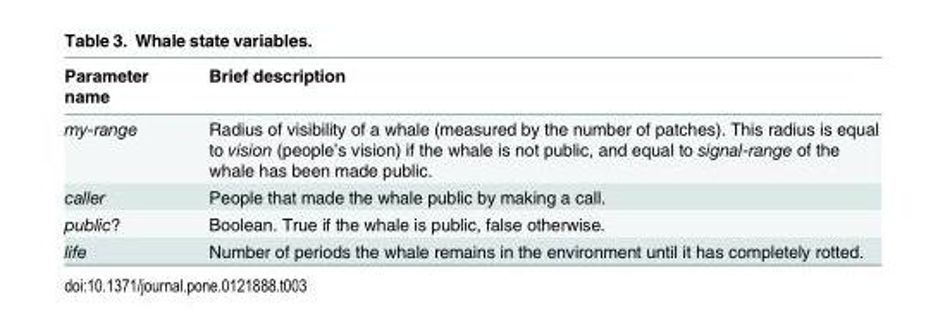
<table><thead><tr><td>Parameter name</td><td>Brief description</td></tr></thead><tbody><tr><td>my-range</td><td>Radius of visibility of a whale (measured by the number of patches). This radius is equal to vision (people’s vision) if the whale is not public, and equal to signal-range of the whale has been made public.</td></tr><tr><td>caller</td><td>People that made the whale public by making a call.</td></tr><tr><td>public?</td><td>Boolean. True if the whale is public, false otherwise.</td></tr><tr><td>life</td><td>Number of periods the whale remains in the environment until it has completely rotted.</td></tr></tbody></table>